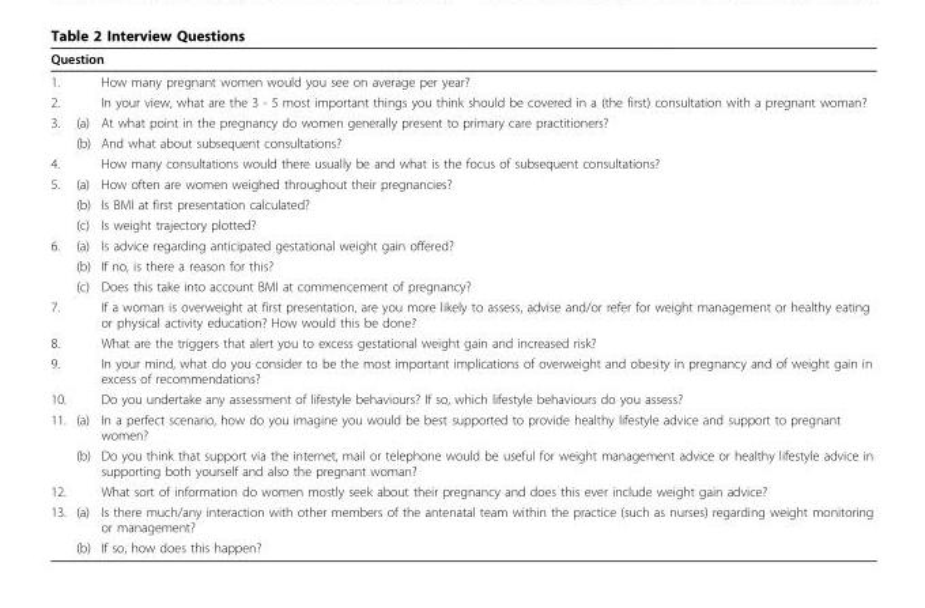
<table><thead><tr><td colspan="3">Question</td></tr><tr><td>1.</td><td></td><td>How many pregnant women would you see on average per year?</td></tr></thead><tbody><tr><td>2.</td><td></td><td>In your view, what are the 3 - 5 most important things you think should be covered in a (the first) consultation with a pregnant woman?</td></tr><tr><td rowspan="2">3.</td><td>(a)</td><td>At what point in the pregnancy do women generally present to primary care practitioners?</td></tr><tr><td>(b)</td><td>And what about subsequent consultations?</td></tr><tr><td>4.</td><td></td><td>How many consultations would there usually be and what is the focus of subsequent consultations?</td></tr><tr><td rowspan="3">5.</td><td>(a)</td><td>How often are women weighed throughout their pregnancies?</td></tr><tr><td>(b)</td><td>Is BMI at first presentation calculated?</td></tr><tr><td>(c)</td><td>Is weight trajectory plotted?</td></tr><tr><td rowspan="3">6.</td><td>(a)</td><td>Is advice regarding anticipated gestational weight gain offered?</td></tr><tr><td>(b)</td><td>If no, is there a reason for this?</td></tr><tr><td>(c)</td><td>Does this take into account BMI at commencement of pregnancy?</td></tr><tr><td>7.</td><td></td><td>If a woman is overweight at first presentation, are you more likely to assess, advise and/or refer for weight management or healthy eating or physical activity education? How would this be done?</td></tr><tr><td>8.</td><td></td><td>What are the triggers that alert you to excess gestational weight gain and increased risk?</td></tr><tr><td>9.</td><td></td><td>In your mind, what do you consider to be the most important implications of overweight and obesity in pregnancy and of weight gain in excess of recommendations?</td></tr><tr><td>10.</td><td></td><td>Do you undertake any assessment of lifestyle behaviours? If so, which lifestyle behaviours do you assess?</td></tr><tr><td rowspan="2">11.</td><td>(a)</td><td>In a perfect scenario, how do you imagine you would be best supported to provide healthy lifestyle advice and support to pregnant women?</td></tr><tr><td>(b)</td><td>Do you think that support via the internet, mail or telephone would be useful for weight management advice or healthy lifestyle advice in supporting both yourself and also the pregnant woman?</td></tr><tr><td>12.</td><td></td><td>What sort of information do women mostly seek about their pregnancy and does this ever include weight gain advice?</td></tr><tr><td rowspan="2">13.</td><td>(a)</td><td>Is there much/any interaction with other members of the antenatal team within the practice (such as nurses) regarding weight monitoring or management?</td></tr><tr><td>(b)</td><td>If so, how does this happen?</td></tr></tbody></table>